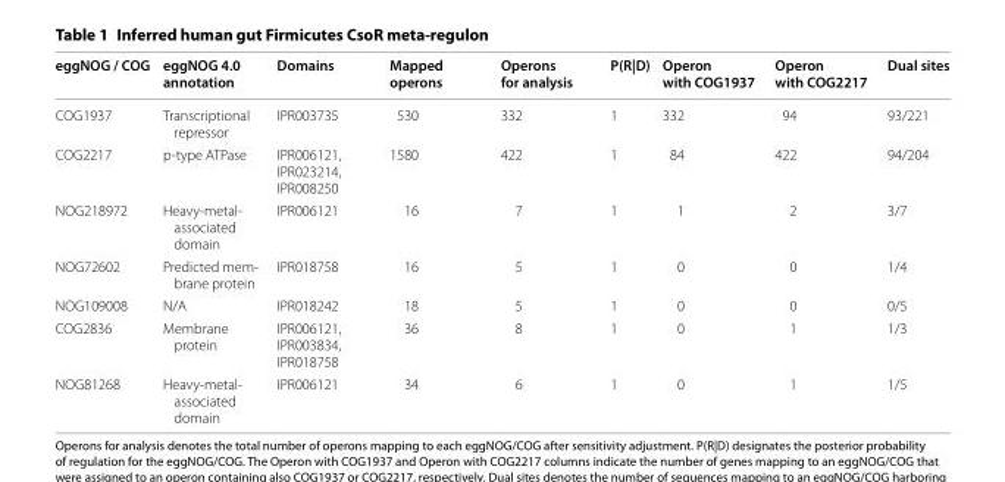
<table><thead><tr><td>eggNOG / COG</td><td>eggNOG 4.0 annotation</td><td>Domains</td><td>Mapped operons</td><td>Operons for analysis</td><td>P(R|D)</td><td>Operon with COG1937</td><td>Operon with COG2217</td><td>Dual sites</td></tr></thead><tbody><tr><td>COG1937</td><td>Transcriptional repressor</td><td>IPR003735</td><td>530</td><td>332</td><td>1</td><td>332</td><td>94</td><td>93/221</td></tr><tr><td>COG2217</td><td>p-type ATPase</td><td>IPR006121, IPR023214, IPR008250</td><td>1580</td><td>422</td><td>1</td><td>84</td><td>422</td><td>94/204</td></tr><tr><td>NOG218972</td><td>Heavy-metal- associated domain</td><td>IPR006121</td><td>16</td><td>7</td><td>1</td><td>1</td><td>2</td><td>3/7</td></tr><tr><td>NOG72602</td><td>Predicted mem- brane protein</td><td>IPR018758</td><td>16</td><td>5</td><td>1</td><td>0</td><td>0</td><td>1/4</td></tr><tr><td>NOG109008</td><td>N/A</td><td>IPR018242</td><td>18</td><td>5</td><td>1</td><td>0</td><td>0</td><td>0/5</td></tr><tr><td>COG2836</td><td>Membrane protein</td><td>IPR006121, IPR003834, IPR018758</td><td>36</td><td>8</td><td>1</td><td>0</td><td>1</td><td>1/3</td></tr><tr><td>NOG81268</td><td>Heavy-metal- associated domain</td><td>IPR006121</td><td>34</td><td>6</td><td>1</td><td>0</td><td>1</td><td>1/5</td></tr></tbody></table>